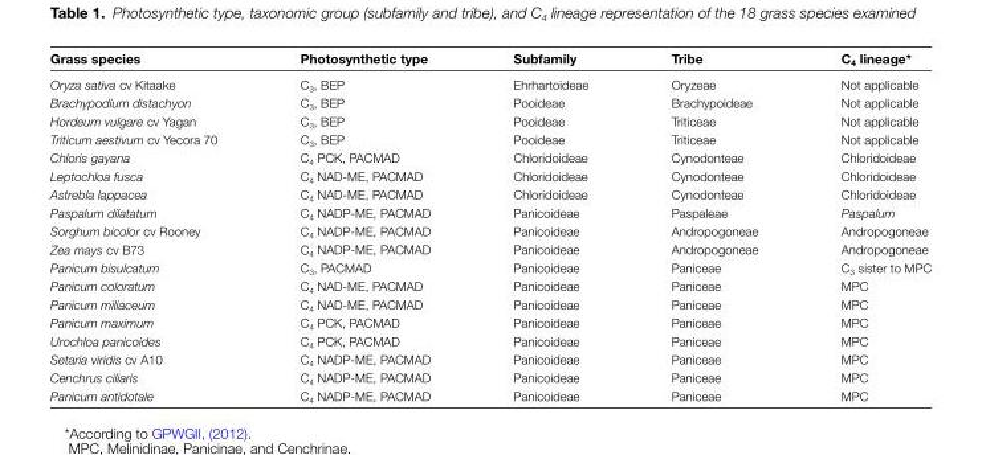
<table><thead><tr><td>Grass species</td><td>Photosynthetic type</td><td>Subfamily</td><td>Tribe</td><td>C<sub>4</sub> lineage*</td></tr></thead><tbody><tr><td>Oryza sativa cv Kitaake</td><td>C<sub>3</sub>, BEP</td><td>Ehrhartoideae</td><td>Oryzeae</td><td>Not applicable</td></tr><tr><td>Brachypodium distachyon</td><td>C<sub>3</sub>, BEP</td><td>Pooideae</td><td>Brachypoideae</td><td>Not applicable</td></tr><tr><td>Hordeum vulgare cv Yagan</td><td>C<sub>3</sub>, BEP</td><td>Pooideae</td><td>Triticeae</td><td>Not applicable</td></tr><tr><td>Triticum aestivum cv Yecora 70</td><td>C<sub>3</sub>, BEP</td><td>Pooideae</td><td>Triticeae</td><td>Not applicable</td></tr><tr><td>Chloris gayana</td><td>C<sub>4</sub> PCK, PACMAD</td><td>Chloridoideae</td><td>Cynodonteae</td><td>Chloridoideae</td></tr><tr><td>Leptochloa fusca</td><td>C<sub>4</sub> NAD-ME, PACMAD</td><td>Chloridoideae</td><td>Cynodonteae</td><td>Chloridoideae</td></tr><tr><td>Astrebla lappacea</td><td>C<sub>4</sub> NAD-ME, PACMAD</td><td>Chloridoideae</td><td>Cynodonteae</td><td>Chloridoideae</td></tr><tr><td>Paspalum dilatatum</td><td>C<sub>4</sub> NADP-ME, PACMAD</td><td>Panicoideae</td><td>Paspaleae</td><td>Paspalum</td></tr><tr><td>Sorghum bicolor cv Rooney</td><td>C<sub>4</sub> NADP-ME, PACMAD</td><td>Panicoideae</td><td>Andropogoneae</td><td>Andropogoneae</td></tr><tr><td>Zea mays cv B73</td><td>C<sub>4</sub> NADP-ME, PACMAD</td><td>Panicoideae</td><td>Andropogoneae</td><td>Andropogoneae</td></tr><tr><td>Panicum bisulcatum</td><td>C<sub>3</sub>, PACMAD</td><td>Panicoideae</td><td>Paniceae</td><td>C<sub>3</sub> sister to MPC</td></tr><tr><td>Panicum coloratum</td><td>C<sub>4</sub> NAD-ME, PACMAD</td><td>Panicoideae</td><td>Paniceae</td><td>MPC</td></tr><tr><td>Panicum miliaceum</td><td>C<sub>4</sub> NAD-ME, PACMAD</td><td>Panicoideae</td><td>Paniceae</td><td>MPC</td></tr><tr><td>Panicum maximum</td><td>C<sub>4</sub> PCK, PACMAD</td><td>Panicoideae</td><td>Paniceae</td><td>MPC</td></tr><tr><td>Urochloa panicoides</td><td>C<sub>4</sub> PCK, PACMAD</td><td>Panicoideae</td><td>Paniceae</td><td>MPC</td></tr><tr><td>Setaria viridis cv A10</td><td>C<sub>4</sub> NADP-ME, PACMAD</td><td>Panicoideae</td><td>Paniceae</td><td>MPC</td></tr><tr><td>Cenchrus ciliaris</td><td>C<sub>4</sub> NADP-ME, PACMAD</td><td>Panicoideae</td><td>Paniceae</td><td>MPC</td></tr><tr><td>Panicum antidotale</td><td>C<sub>4</sub> NADP-ME, PACMAD</td><td>Panicoideae</td><td>Paniceae</td><td>MPC</td></tr></tbody></table>